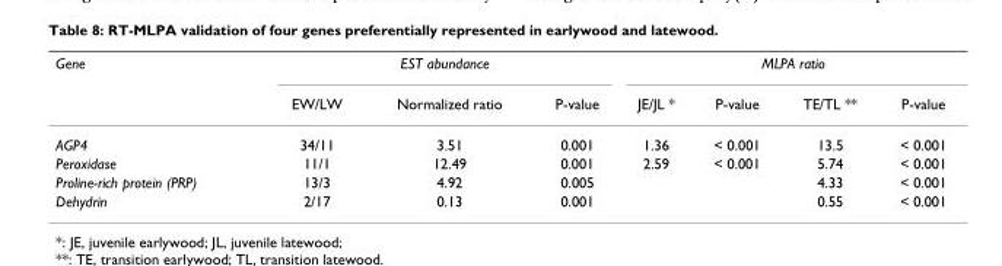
<table><thead><tr><td rowspan="2">Gene</td><td colspan="3">EST abundance</td><td colspan="4">MLPA ratio</td></tr><tr><td>EW/LW</td><td>Normalized ratio</td><td>P-value</td><td>JE/JL *</td><td>P-value</td><td>TE/TL **</td><td>P-value</td></tr></thead><tbody><tr><td>AGP4</td><td>34/11</td><td>3.51</td><td>0.001</td><td>1.36</td><td>&lt; 0.001</td><td>13.5</td><td>&lt; 0.001</td></tr><tr><td>Peroxidase</td><td>11/1</td><td>12.49</td><td>0.001</td><td>2.59</td><td>&lt; 0.001</td><td>5.74</td><td>&lt; 0.001</td></tr><tr><td>Proline-rich protein (PRP)</td><td>13/3</td><td>4.92</td><td>0.005</td><td></td><td></td><td>4.33</td><td>&lt; 0.001</td></tr><tr><td>Dehydrin</td><td>2/17</td><td>0.13</td><td>0.001</td><td></td><td></td><td>0.55</td><td>&lt; 0.001</td></tr></tbody></table>